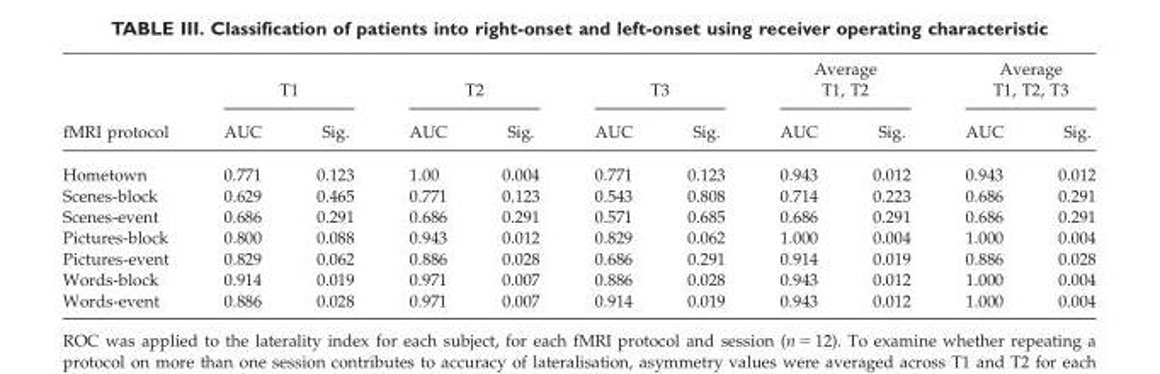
<table><thead><tr><td rowspan="2">fMRI protocol</td><td colspan="2">T1</td><td colspan="2">T2</td><td colspan="2">T3</td><td colspan="2">Average T1, T2</td><td colspan="2">Average T1, T2, T3</td></tr><tr><td>AUC</td><td>Sig.</td><td>AUC</td><td>Sig.</td><td>AUC</td><td>Sig.</td><td>AUC</td><td>Sig.</td><td>AUC</td><td>Sig.</td></tr></thead><tbody><tr><td>Hometown</td><td>0.771</td><td>0.123</td><td>1.00</td><td>0.004</td><td>0.771</td><td>0.123</td><td>0.943</td><td>0.012</td><td>0.943</td><td>0.012</td></tr><tr><td>Scenes-block</td><td>0.629</td><td>0.465</td><td>0.771</td><td>0.123</td><td>0.543</td><td>0.808</td><td>0.714</td><td>0.223</td><td>0.686</td><td>0.291</td></tr><tr><td>Scenes-event</td><td>0.686</td><td>0.291</td><td>0.686</td><td>0.291</td><td>0.571</td><td>0.685</td><td>0.686</td><td>0.291</td><td>0.686</td><td>0.291</td></tr><tr><td>Pictures-block</td><td>0.800</td><td>0.088</td><td>0.943</td><td>0.012</td><td>0.829</td><td>0.062</td><td>1.000</td><td>0.004</td><td>1.000</td><td>0.004</td></tr><tr><td>Pictures-event</td><td>0.829</td><td>0.062</td><td>0.886</td><td>0.028</td><td>0.686</td><td>0.291</td><td>0.914</td><td>0.019</td><td>0.886</td><td>0.028</td></tr><tr><td>Words-block</td><td>0.914</td><td>0.019</td><td>0.971</td><td>0.007</td><td>0.886</td><td>0.028</td><td>0.943</td><td>0.012</td><td>1.000</td><td>0.004</td></tr><tr><td>Words-event</td><td>0.886</td><td>0.028</td><td>0.971</td><td>0.007</td><td>0.914</td><td>0.019</td><td>0.943</td><td>0.012</td><td>1.000</td><td>0.004</td></tr></tbody></table>